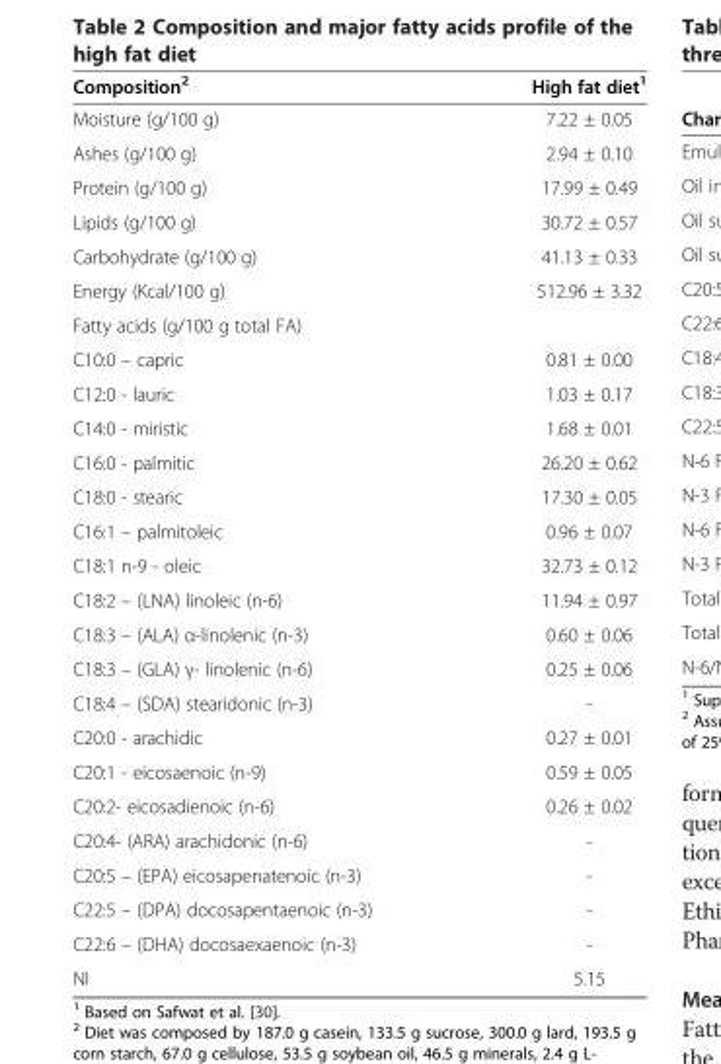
<table><thead><tr><td>Composition<sup>2</sup></td><td>High fat diet<sup>1</sup></td></tr></thead><tbody><tr><td>Moisture (g/100 g)</td><td>7.22 ± 0.05</td></tr><tr><td>Ashes (g/100 g)</td><td>2.94 ± 0.10</td></tr><tr><td>Protein (g/100 g)</td><td>17.99 ± 0.49</td></tr><tr><td>Lipids (g/100 g)</td><td>30.72 ± 0.57</td></tr><tr><td>Carbohydrate (g/100 g)</td><td>41.13 ± 0.33</td></tr><tr><td>Energy (Kcal/100 g)</td><td>512.96 ± 3.32</td></tr><tr><td colspan="2">Fatty acids (g/100 g total FA)</td></tr><tr><td>C10:0 – capric</td><td>0.81 ± 0.00</td></tr><tr><td>C12:0 - lauric</td><td>1.03 ± 0.17</td></tr><tr><td>C14:0 - miristic</td><td>1.68 ± 0.01</td></tr><tr><td>C16:0 - palmitic</td><td>26.20 ± 0.62</td></tr><tr><td>C18:0 - stearic</td><td>17.30 ± 0.05</td></tr><tr><td>C16:1 – palmitoleic</td><td>0.96 ± 0.07</td></tr><tr><td>C18:1 n-9 - oleic</td><td>32.73 ± 0.12</td></tr><tr><td>C18:2 – (LNA) linoleic (n-6)</td><td>11.94 ± 0.97</td></tr><tr><td>C18:3 – (ALA) α-linolenic (n-3)</td><td>0.60 ± 0.06</td></tr><tr><td>C18:3 – (GLA) γ- linolenic (n-6)</td><td>0.25 ± 0.06</td></tr><tr><td>C18:4 – (SDA) stearidonic (n-3)</td><td>-</td></tr><tr><td>C20:0 - arachidic</td><td>0.27 ± 0.01</td></tr><tr><td>C20:1 - eicosaenoic (n-9)</td><td>0.59 ± 0.05</td></tr><tr><td>C20:2- eicosadienoic (n-6)</td><td>0.26 ± 0.02</td></tr><tr><td>C20:4- (ARA) arachidonic (n-6)</td><td>-</td></tr><tr><td>C20:5 – (EPA) eicosapenatenoic (n-3)</td><td>-</td></tr><tr><td>C22:5 – (DPA) docosapentaenoic (n-3)</td><td>-</td></tr><tr><td>C22:6 – (DHA) docosaexaenoic (n-3)</td><td>-</td></tr><tr><td>NI</td><td>5.15</td></tr></tbody></table>